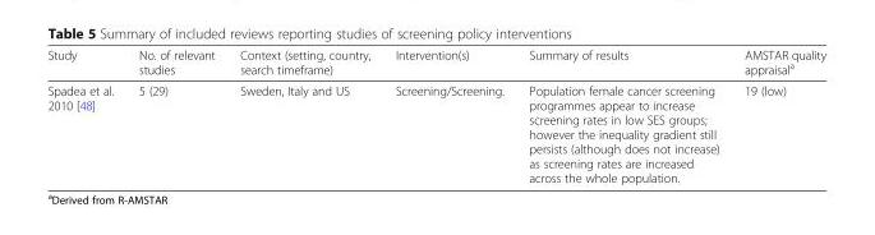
<table><thead><tr><td>Study</td><td>No. of relevant studies</td><td>Context (setting, country, search timeframe)</td><td>Intervention(s)</td><td>Summary of results</td><td>AMSTAR quality appraisal<sup>a</sup></td></tr></thead><tbody><tr><td>Spadea et al. 2010 [48]</td><td>5 (29)</td><td>Sweden, Italy and US</td><td>Screening/Screening.</td><td>Population female cancer screening programmes appear to increase screening rates in low SES groups; however the inequality gradient still persists (although does not increase) as screening rates are increased across the whole population.</td><td>19 (low)</td></tr></tbody></table>